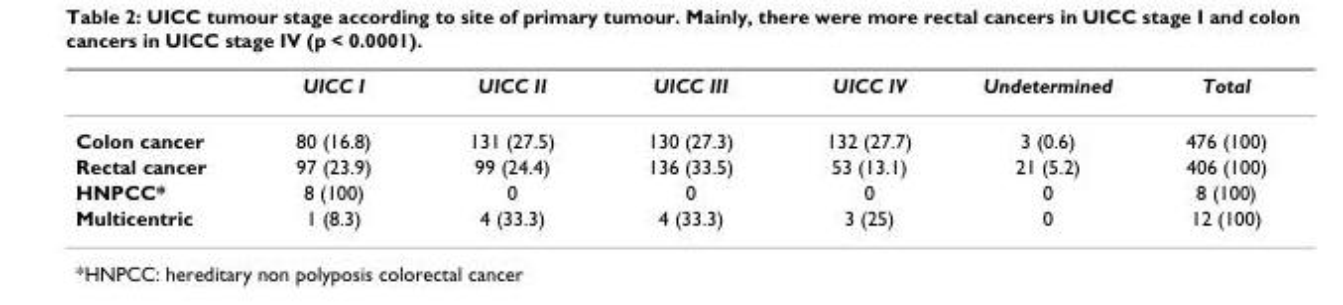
<table><thead><tr><td></td><td>UICC I</td><td>UICC II</td><td>UICC III</td><td>UICC IV</td><td>Undetermined</td><td>Total</td></tr></thead><tbody><tr><td>Colon cancer</td><td>80 (16.8)</td><td>131 (27.5)</td><td>130 (27.3)</td><td>132 (27.7)</td><td>3 (0.6)</td><td>476 (100)</td></tr><tr><td>Rectal cancer</td><td>97 (23.9)</td><td>99 (24.4)</td><td>136 (33.5)</td><td>53 (13.1)</td><td>21 (5.2)</td><td>406 (100)</td></tr><tr><td>HNPCC*</td><td>8 (100)</td><td>0</td><td>0</td><td>0</td><td>0</td><td>8 (100)</td></tr><tr><td>Multicentric</td><td>1 (8.3)</td><td>4 (33.3)</td><td>4 (33.3)</td><td>3 (25)</td><td>0</td><td>12 (100)</td></tr></tbody></table>